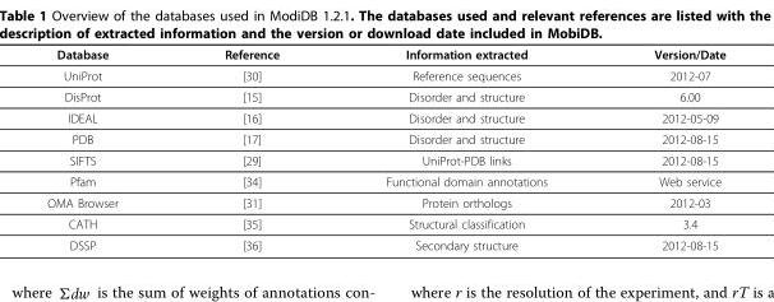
<table><thead><tr><td>Database</td><td>Reference</td><td>Information extracted</td><td>Version/Date</td></tr></thead><tbody><tr><td>UniProt</td><td>[30]</td><td>Reference sequences</td><td>2012-07</td></tr><tr><td>DisProt</td><td>[15]</td><td>Disorder and structure</td><td>6.00</td></tr><tr><td>IDEAL</td><td>[16]</td><td>Disorder and structure</td><td>2012-05-09</td></tr><tr><td>PDB</td><td>[17]</td><td>Disorder and structure</td><td>2012-08-15</td></tr><tr><td>SIFTS</td><td>[29]</td><td>UniProt-PDB links</td><td>2012-08-15</td></tr><tr><td>Pfam</td><td>[34]</td><td>Functional domain annotations</td><td>Web service</td></tr><tr><td>OMA Browser</td><td>[31]</td><td>Protein orthologs</td><td>2012-03</td></tr><tr><td>CATH</td><td>[35]</td><td>Structural classification</td><td>3.4</td></tr><tr><td>DSSP</td><td>[36]</td><td>Secondary structure</td><td>2012-08-15</td></tr></tbody></table>